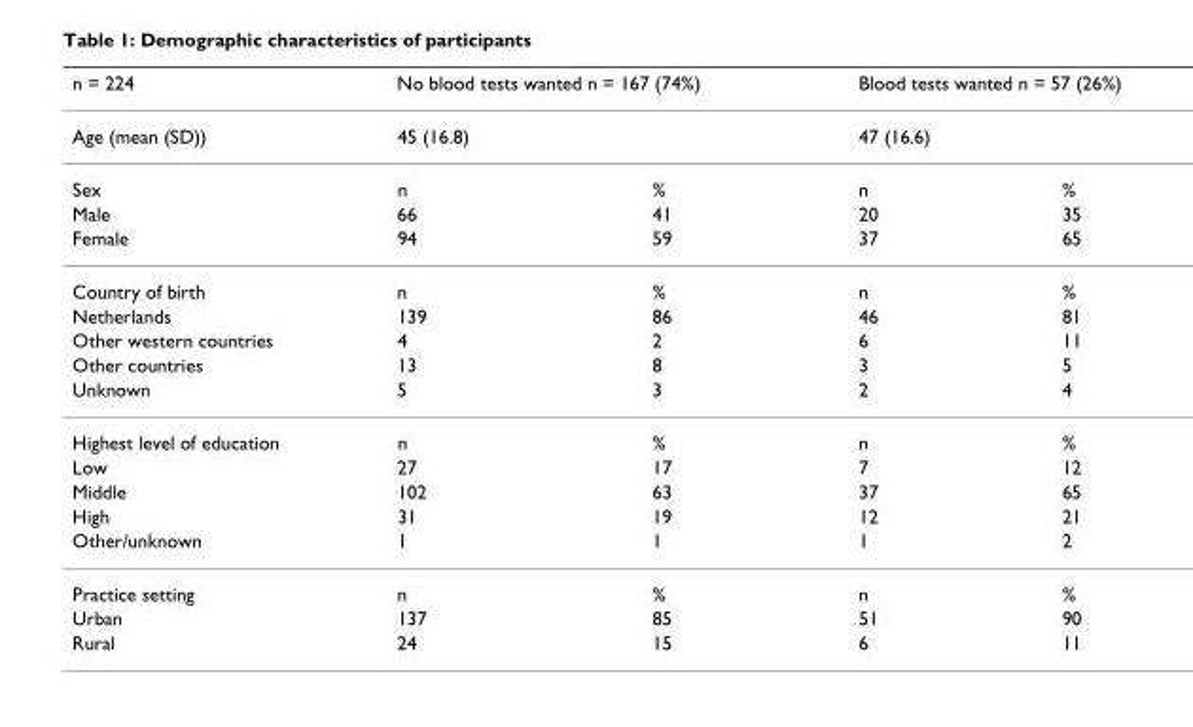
<table><thead><tr><td rowspan="3">n = 224 Age (mean (SD)) Sex</td><td rowspan="2" colspan="2">No blood tests wanted n = 167 (74%) 45 (16.8)</td><td rowspan="2" colspan="2">Blood tests wanted n = 57 (26%) 47 (16.6)</td></tr><tr></tr><tr><td>n</td><td>%</td><td>n</td><td>%</td></tr></thead><tbody><tr><td>Male</td><td>66</td><td>41</td><td>20</td><td>35</td></tr><tr><td>Female</td><td>94</td><td>59</td><td>37</td><td>65</td></tr><tr><td>Country of birth</td><td>n</td><td>%</td><td>n</td><td>%</td></tr><tr><td>Netherlands</td><td>139</td><td>86</td><td>46</td><td>81</td></tr><tr><td>Other western countries</td><td>4</td><td>2</td><td>6</td><td>11</td></tr><tr><td>Other countries</td><td>13</td><td>8</td><td>3</td><td>5</td></tr><tr><td>Unknown</td><td>5</td><td>3</td><td>2</td><td>4</td></tr><tr><td>Highest level of education</td><td>n</td><td>%</td><td>n</td><td>%</td></tr><tr><td>Low</td><td>27</td><td>17</td><td>7</td><td>12</td></tr><tr><td>Middle</td><td>102</td><td>63</td><td>37</td><td>65</td></tr><tr><td>High</td><td>31</td><td>19</td><td>12</td><td>21</td></tr><tr><td>Other/unknown</td><td>1</td><td>1</td><td>1</td><td>2</td></tr><tr><td>Practice setting</td><td>n</td><td>%</td><td>n</td><td>%</td></tr><tr><td>Urban</td><td>137</td><td>85</td><td>51</td><td>90</td></tr><tr><td>Rural</td><td>24</td><td>15</td><td>6</td><td>11</td></tr></tbody></table>